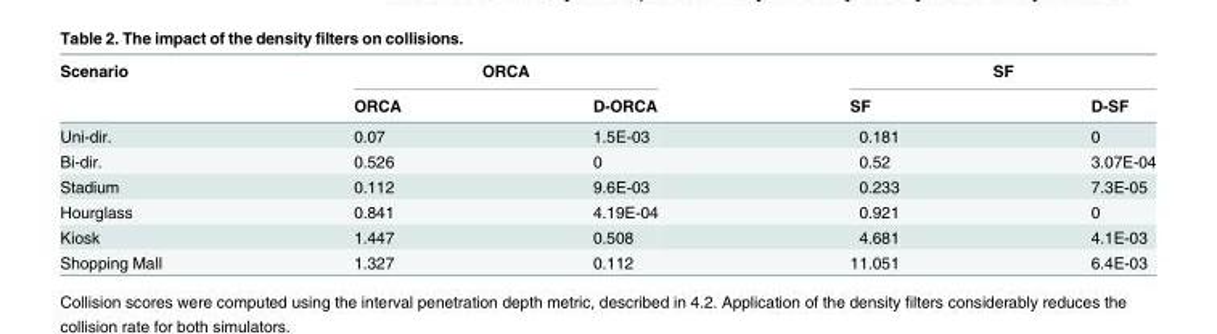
<table><thead><tr><td rowspan="2">Scenario</td><td colspan="2">ORCA</td><td colspan="2">SF</td></tr><tr><td>ORCA</td><td>D-ORCA</td><td>SF</td><td>D-SF</td></tr></thead><tbody><tr><td>Uni-dir.</td><td>0.07</td><td>1.5E-03</td><td>0.181</td><td>0</td></tr><tr><td>Bi-dir.</td><td>0.526</td><td>0</td><td>0.52</td><td>3.07E-04</td></tr><tr><td>Stadium</td><td>0.112</td><td>9.6E-03</td><td>0.233</td><td>7.3E-05</td></tr><tr><td>Hourglass</td><td>0.841</td><td>4.19E-04</td><td>0.921</td><td>0</td></tr><tr><td>Kiosk</td><td>1.447</td><td>0.508</td><td>4.681</td><td>4.1E-03</td></tr><tr><td>Shopping Mall</td><td>1.327</td><td>0.112</td><td>11.051</td><td>6.4E-03</td></tr></tbody></table>